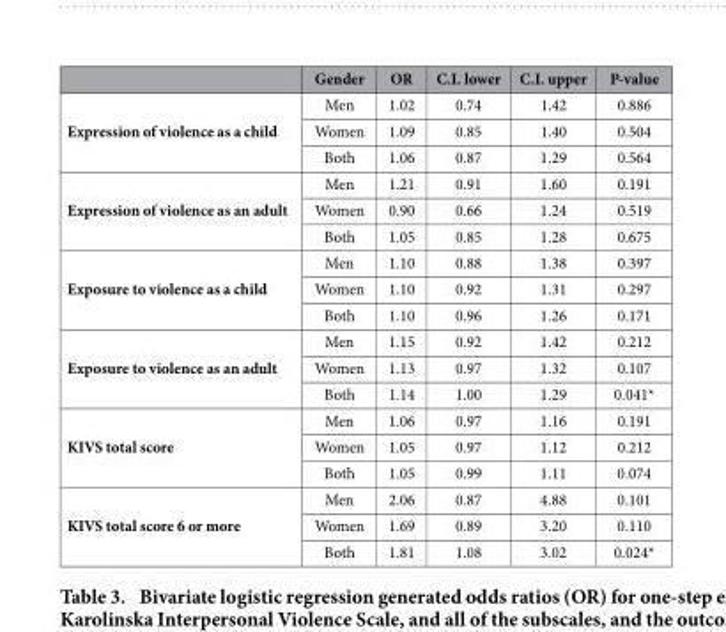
<table><thead><tr><td></td><td>Gender</td><td>OR</td><td>C.I. lower</td><td>C.I. upper</td><td>P-value</td></tr></thead><tbody><tr><td rowspan="3">Expression of violence as a child</td><td>Men</td><td>1.02</td><td>0.74</td><td>1.42</td><td>0.886</td></tr><tr><td>Women</td><td>1.09</td><td>0.85</td><td>1.40</td><td>0.504</td></tr><tr><td>Both</td><td>1.06</td><td>0.87</td><td>1.29</td><td>0.564</td></tr><tr><td rowspan="3">Expression of violence as an adult</td><td>Men</td><td>1.21</td><td>0.91</td><td>1.60</td><td>0.191</td></tr><tr><td>Women</td><td>0.90</td><td>0.66</td><td>1.24</td><td>0.519</td></tr><tr><td>Both</td><td>1.05</td><td>0.85</td><td>1.28</td><td>0.675</td></tr><tr><td rowspan="3">Exposure to violence as a child</td><td>Men</td><td>1.10</td><td>0.88</td><td>1.38</td><td>0.397</td></tr><tr><td>Women</td><td>1.10</td><td>0.92</td><td>1.31</td><td>0.297</td></tr><tr><td>Both</td><td>1.10</td><td>0.96</td><td>1.26</td><td>0.171</td></tr><tr><td rowspan="3">Exposure to violence as an adult</td><td>Men</td><td>1.15</td><td>0.92</td><td>1.42</td><td>0.212</td></tr><tr><td>Women</td><td>1.13</td><td>0.97</td><td>1.32</td><td>0.107</td></tr><tr><td>Both</td><td>1.14</td><td>1.00</td><td>1.29</td><td>0.041*</td></tr><tr><td rowspan="3">KIVS total score</td><td>Men</td><td>1.06</td><td>0.97</td><td>1.16</td><td>0.191</td></tr><tr><td>Women</td><td>1.05</td><td>0.97</td><td>1.12</td><td>0.212</td></tr><tr><td>Both</td><td>1.05</td><td>0.99</td><td>1.11</td><td>0.074</td></tr><tr><td rowspan="3">KIVS total score 6 or more</td><td>Men</td><td>2.06</td><td>0.87</td><td>4.88</td><td>0.101</td></tr><tr><td>Women</td><td>1.69</td><td>0.89</td><td>3.20</td><td>0.110</td></tr><tr><td>Both</td><td>1.81</td><td>1.08</td><td>3.02</td><td>0.024*</td></tr></tbody></table>